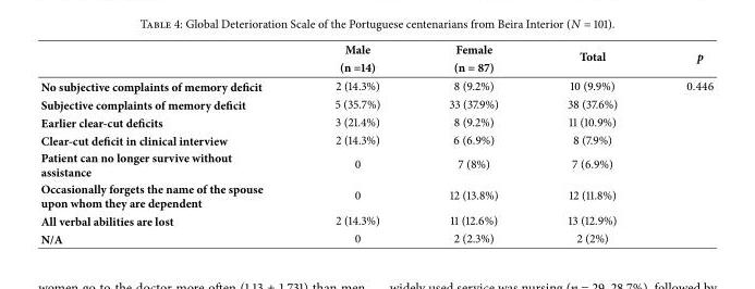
<table><thead><tr><td rowspan="2"></td><td rowspan="2">Male (n =14)</td><td rowspan="2">Female (n = 87)</td><td rowspan="2">Total</td><td rowspan="2">p</td></tr><tr></tr></thead><tbody><tr><td>No subjective complaints of memory deficit</td><td>2 (14.3%)</td><td>8 (9.2%)</td><td>10 (9.9%)</td><td>0.446</td></tr><tr><td>Subjective complaints of memory deficit</td><td>5 (35.7%)</td><td>33 (37.9%)</td><td>38 (37.6%)</td><td></td></tr><tr><td>Earlier clear-cut deficits</td><td>3 (21.4%)</td><td>8 (9.2%)</td><td>11 (10.9%)</td><td></td></tr><tr><td>Clear-cut deficit in clinical interview</td><td>2 (14.3%)</td><td>6 (6.9%)</td><td>8 (7.9%)</td><td></td></tr><tr><td>Patient can no longer survive without assistance</td><td>0</td><td>7 (8%)</td><td>7 (6.9%)</td><td></td></tr><tr><td>Occasionally forgets the name of the spouse upon whom they are dependent</td><td>0</td><td>12 (13.8%)</td><td>12 (11.8%)</td><td></td></tr><tr><td>All verbal abilities are lost</td><td>2 (14.3%)</td><td>11 (12.6%)</td><td>13 (12.9%)</td><td></td></tr><tr><td>N/A</td><td>0</td><td>2 (2.3%)</td><td>2 (2%)</td><td></td></tr></tbody></table>